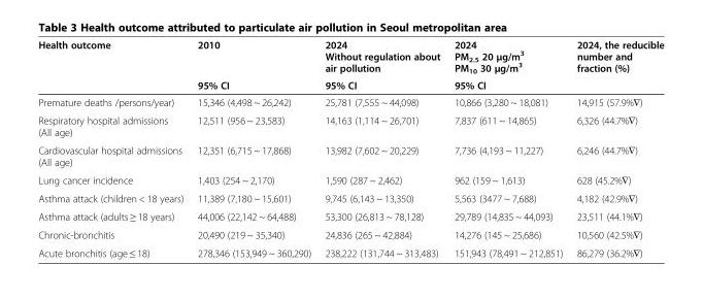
<table><thead><tr><td rowspan="2">Health outcome</td><td rowspan="2">2010 95% CI</td><td rowspan="2">2024 Without regulation about air pollution 95% CI</td><td rowspan="2">2024 PM<sub>2.5</sub> 20 μg/m<sup>3</sup> PM<sub>10</sub> 30 μg/m<sup>3</sup> 95% CI</td><td rowspan="2">2024, the reducible number and fraction (%)</td></tr><tr></tr></thead><tbody><tr><td>Premature deaths /persons/year)</td><td>15,346 (4,498 ~ 26,242)</td><td>25,781 (7,555 ~ 44,098)</td><td>10,866 (3,280 ~ 18,081)</td><td>14,915 (57.9%∇)</td></tr><tr><td>Respiratory hospital admissions (All age)</td><td>12,511 (956 ~ 23,583)</td><td>14,163 (1,114 ~ 26,701)</td><td>7,837 (611 ~ 14,865)</td><td>6,326 (44.7%∇)</td></tr><tr><td>Cardiovascular hospital admissions (All age)</td><td>12,351 (6,715 ~ 17,868)</td><td>13,982 (7,602 ~ 20,229)</td><td>7,736 (4,193 ~ 11,227)</td><td>6,246 (44.7%∇)</td></tr><tr><td>Lung cancer incidence</td><td>1,403 (254 ~ 2,170)</td><td>1,590 (287 ~ 2,462)</td><td>962 (159 ~ 1,613)</td><td>628 (45.2%∇)</td></tr><tr><td>Asthma attack (children &lt; 18 years)</td><td>11,389 (7,180 ~ 15,601)</td><td>9,745 (6,143 ~ 13,350)</td><td>5,563 (3477 ~ 7,688)</td><td>4,182 (42.9%∇)</td></tr><tr><td>Asthma attack (adults ≥ 18 years)</td><td>44,006 (22,142 ~ 64,488)</td><td>53,300 (26,813 ~ 78,128)</td><td>29,789 (14,835 ~ 44,093)</td><td>23,511 (44.1%∇)</td></tr><tr><td>Chronic-bronchitis</td><td>20,490 (219 ~ 35,340)</td><td>24,836 (265 ~ 42,884)</td><td>14,276 (145 ~ 25,686)</td><td>10,560 (42.5%∇)</td></tr><tr><td>Acute bronchitis (age ≤ 18)</td><td>278,346 (153,949 ~ 360,290)</td><td>238,222 (131,744 ~ 313,483)</td><td>151,943 (78,491 ~ 212,851)</td><td>86,279 (36.2%∇)</td></tr></tbody></table>